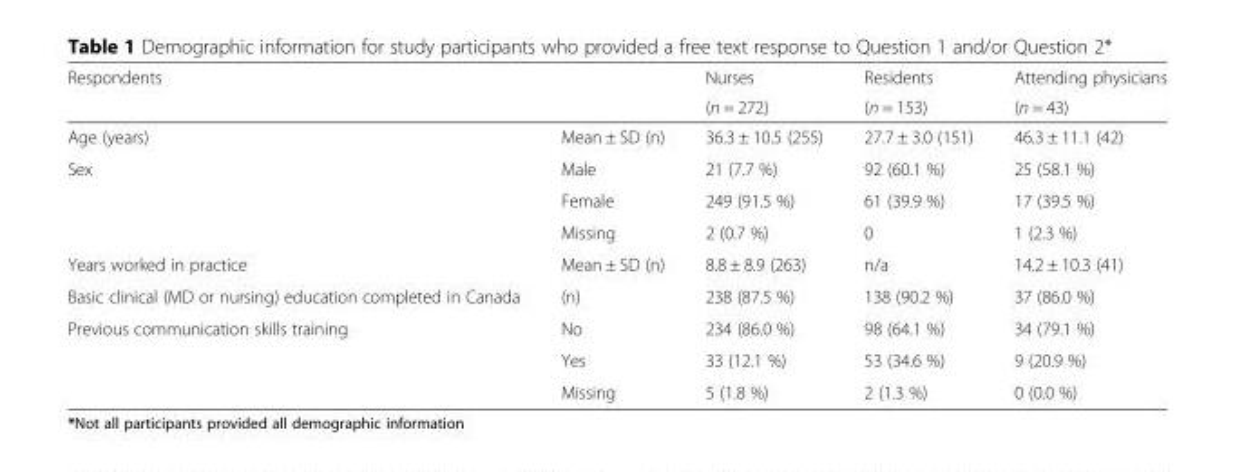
<table><thead><tr><td rowspan="2" colspan="2">Respondents</td><td rowspan="3">Nurses (n = 272) 36.3 ± 10.5 (255)</td><td rowspan="3">Residents (n = 153) 27.7 ± 3.0 (151)</td><td rowspan="3">Attending physicians (n = 43) 46.3 ± 11.1 (42)</td></tr><tr></tr><tr><td>Age (years)</td><td>Mean ± SD (n)</td></tr></thead><tbody><tr><td rowspan="3">Sex</td><td>Male</td><td>21 (7.7 %)</td><td>92 (60.1 %)</td><td>25 (58.1 %)</td></tr><tr><td>Female</td><td>249 (91.5 %)</td><td>61 (39.9 %)</td><td>17 (39.5 %)</td></tr><tr><td>Missing</td><td>2 (0.7 %)</td><td>0</td><td>1 (2.3 %)</td></tr><tr><td>Years worked in practice</td><td>Mean ± SD (n)</td><td>8.8 ± 8.9 (263)</td><td>n/a</td><td>14.2 ± 10.3 (41)</td></tr><tr><td>Basic clinical (MD or nursing) education completed in Canada</td><td>(n)</td><td>238 (87.5 %)</td><td>138 (90.2 %)</td><td>37 (86.0 %)</td></tr><tr><td rowspan="3">Previous communication skills training</td><td>No</td><td>234 (86.0 %)</td><td>98 (64.1 %)</td><td>34 (79.1 %)</td></tr><tr><td>Yes</td><td>33 (12.1 %)</td><td>53 (34.6 %)</td><td>9 (20.9 %)</td></tr><tr><td>Missing</td><td>5 (1.8 %)</td><td>2 (1.3 %)</td><td>0 (0.0 %)</td></tr></tbody></table>